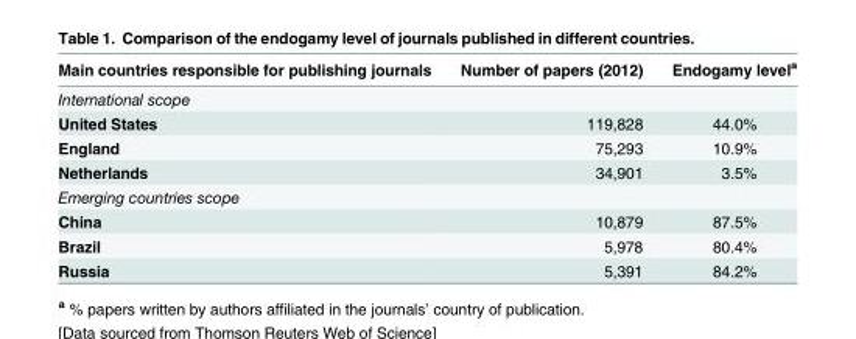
<table><thead><tr><td>Main countries responsible for publishing journals</td><td>Number of papers (2012)</td><td>Endogamy level<sup>a</sup></td></tr></thead><tbody><tr><td colspan="3">International scope</td></tr><tr><td>United States</td><td>119,828</td><td>44.0%</td></tr><tr><td>England</td><td>75,293</td><td>10.9%</td></tr><tr><td>Netherlands</td><td>34,901</td><td>3.5%</td></tr><tr><td colspan="3">Emerging countries scope</td></tr><tr><td>China</td><td>10,879</td><td>87.5%</td></tr><tr><td>Brazil</td><td>5,978</td><td>80.4%</td></tr><tr><td>Russia</td><td>5,391</td><td>84.2%</td></tr></tbody></table>